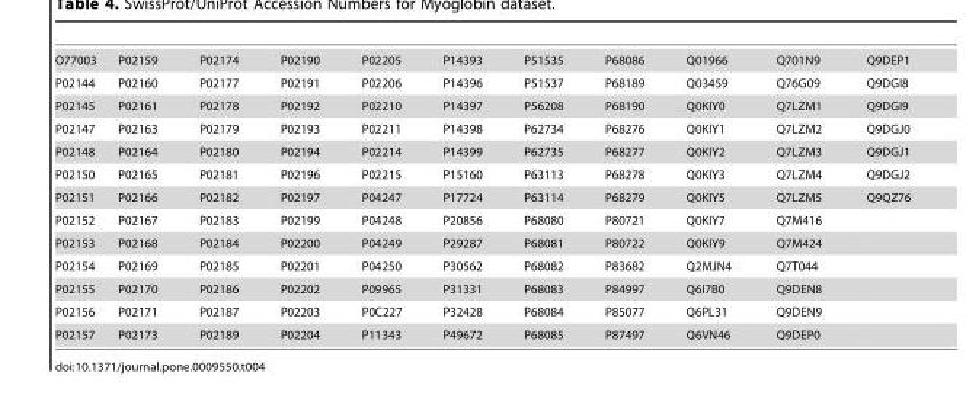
<table><tbody><tr><td>O77003</td><td>P02159</td><td>P02174</td><td>P02190</td><td>P02205</td><td>P14393</td><td>P51535</td><td>P68086</td><td>Q01966</td><td>Q701N9</td><td>Q9DEP1</td></tr><tr><td>P02144</td><td>P02160</td><td>P02177</td><td>P02191</td><td>P02206</td><td>P14396</td><td>P51537</td><td>P68189</td><td>Q03459</td><td>Q76G09</td><td>Q9DGI8</td></tr><tr><td>P02145</td><td>P02161</td><td>P02178</td><td>P02192</td><td>P02210</td><td>P14397</td><td>P56208</td><td>P68190</td><td>Q0KIY0</td><td>Q7LZM1</td><td>Q9DGI9</td></tr><tr><td>P02147</td><td>P02163</td><td>P02179</td><td>P02193</td><td>P02211</td><td>P14398</td><td>P62734</td><td>P68276</td><td>Q0KIY1</td><td>Q7LZM2</td><td>Q9DGJ0</td></tr><tr><td>P02148</td><td>P02164</td><td>P02180</td><td>P02194</td><td>P02214</td><td>P14399</td><td>P62735</td><td>P68277</td><td>Q0KIY2</td><td>Q7LZM3</td><td>Q9DGJ1</td></tr><tr><td>P02150</td><td>P02165</td><td>P02181</td><td>P02196</td><td>P02215</td><td>P15160</td><td>P63113</td><td>P68278</td><td>Q0KIY3</td><td>Q7LZM4</td><td>Q9DGJ2</td></tr><tr><td>P02151</td><td>P02166</td><td>P02182</td><td>P02197</td><td>P04247</td><td>P17724</td><td>P63114</td><td>P68279</td><td>Q0KIY5</td><td>Q7LZM5</td><td>Q9QZ76</td></tr><tr><td>P02152</td><td>P02167</td><td>P02183</td><td>P02199</td><td>P04248</td><td>P20856</td><td>P68080</td><td>P80721</td><td>Q0KIY7</td><td>Q7M416</td><td></td></tr><tr><td>P02153</td><td>P02168</td><td>P02184</td><td>P02200</td><td>P04249</td><td>P29287</td><td>P68081</td><td>P80722</td><td>Q0KIY9</td><td>Q7M424</td><td></td></tr><tr><td>P02154</td><td>P02169</td><td>P02185</td><td>P02201</td><td>P04250</td><td>P30562</td><td>P68082</td><td>P83682</td><td>Q2MJN4</td><td>Q7T044</td><td></td></tr><tr><td>P02155</td><td>P02170</td><td>P02186</td><td>P02202</td><td>P09965</td><td>P31331</td><td>P68083</td><td>P84997</td><td>Q6I7B0</td><td>Q9DEN8</td><td></td></tr><tr><td>P02156</td><td>P02171</td><td>P02187</td><td>P02203</td><td>P0C227</td><td>P32428</td><td>P68084</td><td>P85077</td><td>Q6PL31</td><td>Q9DEN9</td><td></td></tr><tr><td>P02157</td><td>P02173</td><td>P02189</td><td>P02204</td><td>P11343</td><td>P49672</td><td>P68085</td><td>P87497</td><td>Q6VN46</td><td>Q9DEP0</td><td></td></tr></tbody></table>